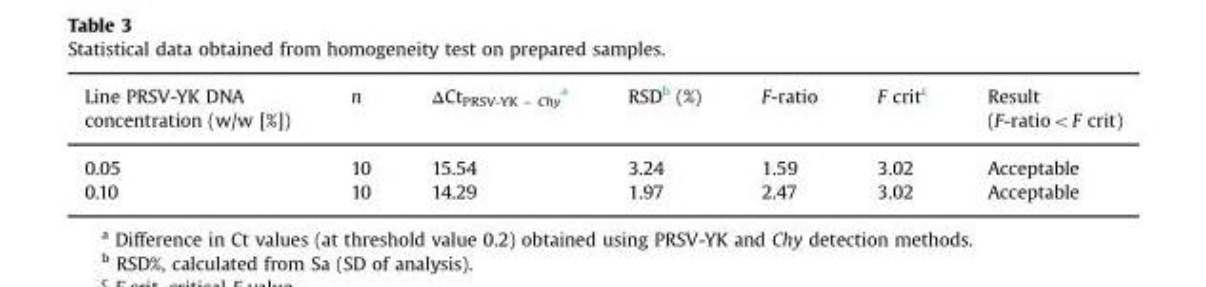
<table><thead><tr><td>Line PRSV-YK DNA concentration (w/w [%])</td><td>n</td><td>ΔCt<sub>PRSV-YK – Chy</sub> <sup>a</sup></td><td>RSD<sup>b</sup> (%)</td><td>F-ratio</td><td>F crit<sup>c</sup></td><td>Result (F-ratio&lt;F crit)</td></tr></thead><tbody><tr><td>0.05</td><td>10</td><td>15.54</td><td>3.24</td><td>1.59</td><td>3.02</td><td>Acceptable</td></tr><tr><td>0.10</td><td>10</td><td>14.29</td><td>1.97</td><td>2.47</td><td>3.02</td><td>Acceptable</td></tr></tbody></table>